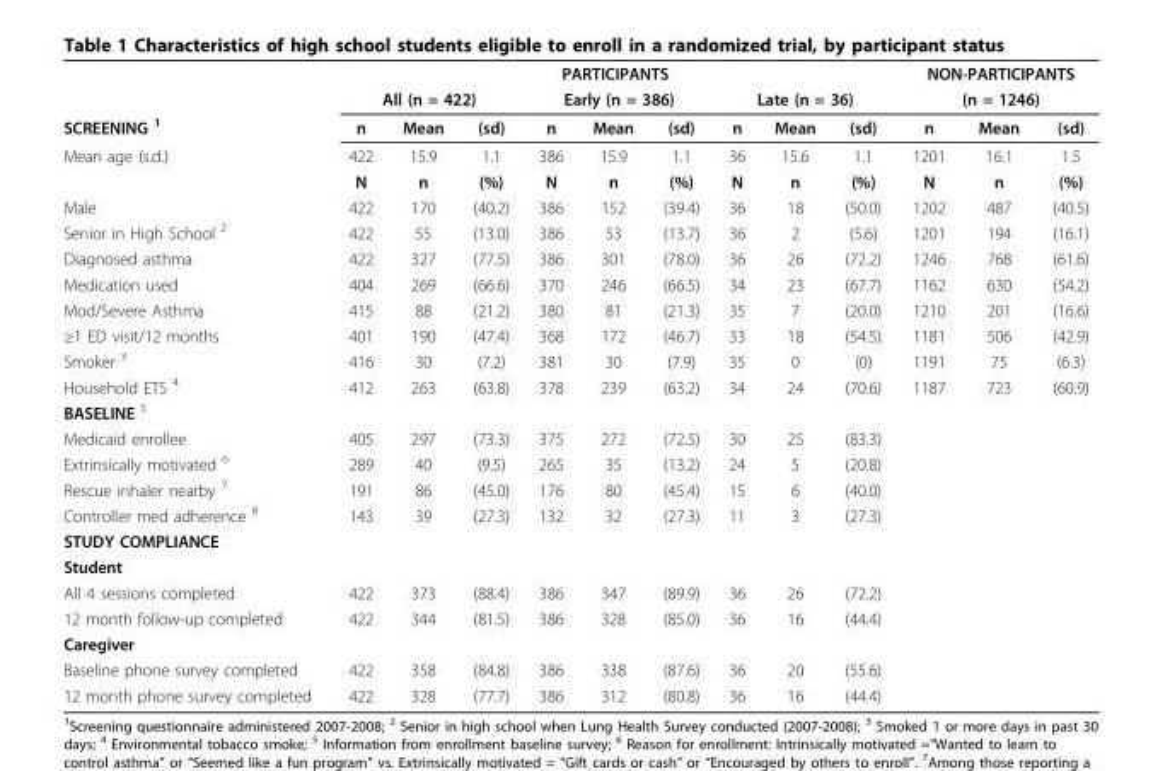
<table><thead><tr><td rowspan="3">SCREENING <sup>1</sup></td><td colspan="9">PARTICIPANTS</td><td rowspan="2" colspan="3">NON-PARTICIPANTS (n = 1246)</td></tr><tr><td colspan="3">All (n = 422)</td><td colspan="3">Early (n = 386)</td><td colspan="3">Late (n = 36)</td></tr><tr><td>n</td><td>Mean</td><td>(sd)</td><td>n</td><td>Mean</td><td>(sd)</td><td>n</td><td>Mean</td><td>(sd)</td><td>n</td><td>Mean</td><td>(sd)</td></tr></thead><tbody><tr><td rowspan="2">Mean age (s.d.)</td><td>422</td><td>15.9</td><td>1.1</td><td>386</td><td>15.9</td><td>1.1</td><td>36</td><td>15.6</td><td>1.1</td><td>1201</td><td>16.1</td><td>1.5</td></tr><tr><td>N</td><td>n</td><td>(%)</td><td>N</td><td>n</td><td>(%)</td><td>N</td><td>n</td><td>(%)</td><td>N</td><td>n</td><td>(%)</td></tr><tr><td>Male</td><td>422</td><td>170</td><td>(40.2)</td><td>386</td><td>152</td><td>(39.4)</td><td>36</td><td>18</td><td>(50.0)</td><td>1202</td><td>487</td><td>(40.5)</td></tr><tr><td>Senior in High School <sup>2</sup></td><td>422</td><td>55</td><td>(13.0)</td><td>386</td><td>53</td><td>(13.7)</td><td>36</td><td>2</td><td>(5.6)</td><td>1201</td><td>194</td><td>(16.1)</td></tr><tr><td>Diagnosed asthma</td><td>422</td><td>327</td><td>(77.5)</td><td>386</td><td>301</td><td>(78.0)</td><td>36</td><td>26</td><td>(72.2)</td><td>1246</td><td>768</td><td>(61.6)</td></tr><tr><td>Medication used</td><td>404</td><td>269</td><td>(66.6)</td><td>370</td><td>246</td><td>(66.5)</td><td>34</td><td>23</td><td>(67.7)</td><td>1162</td><td>630</td><td>(54.2)</td></tr><tr><td>Mod/Severe Asthma</td><td>415</td><td>88</td><td>(21.2)</td><td>380</td><td>81</td><td>(21.3)</td><td>35</td><td>7</td><td>(20.0)</td><td>1210</td><td>201</td><td>(16.6)</td></tr><tr><td>≥1 ED visit/12 months</td><td>401</td><td>190</td><td>(47.4)</td><td>368</td><td>172</td><td>(46.7)</td><td>33</td><td>18</td><td>(54.5)</td><td>1181</td><td>506</td><td>(42.9)</td></tr><tr><td>Smoker <sup>3</sup></td><td>416</td><td>30</td><td>(7.2)</td><td>381</td><td>30</td><td>(7.9)</td><td>35</td><td>0</td><td>(0)</td><td>1191</td><td>75</td><td>(6.3)</td></tr><tr><td>Household ETS <sup>4</sup></td><td>412</td><td>263</td><td>(63.8)</td><td>378</td><td>239</td><td>(63.2)</td><td>34</td><td>24</td><td>(70.6)</td><td>1187</td><td>723</td><td>(60.9)</td></tr><tr><td colspan="13">BASELINE <sup>5</sup></td></tr><tr><td>Medicaid enrollee</td><td>405</td><td>297</td><td>(73.3)</td><td>375</td><td>272</td><td>(72.5)</td><td>30</td><td>25</td><td>(83.3)</td><td></td><td></td><td></td></tr><tr><td>Extrinsically motivated <sup>6</sup></td><td>289</td><td>40</td><td>(9.5)</td><td>265</td><td>35</td><td>(13.2)</td><td>24</td><td>5</td><td>(20.8)</td><td></td><td></td><td></td></tr><tr><td>Rescue inhaler nearby <sup>7</sup></td><td>191</td><td>86</td><td>(45.0)</td><td>176</td><td>80</td><td>(45.4)</td><td>15</td><td>6</td><td>(40.0)</td><td></td><td></td><td></td></tr><tr><td>Controller med adherence <sup>8</sup></td><td>143</td><td>39</td><td>(27.3)</td><td>132</td><td>32</td><td>(27.3)</td><td>11</td><td>3</td><td>(27.3)</td><td></td><td></td><td></td></tr><tr><td colspan="13">STUDY COMPLIANCE</td></tr><tr><td colspan="13">Student</td></tr><tr><td>All 4 sessions completed</td><td>422</td><td>373</td><td>(88.4)</td><td>386</td><td>347</td><td>(89.9)</td><td>36</td><td>26</td><td>(72.2)</td><td></td><td></td><td></td></tr><tr><td>12 month follow-up completed</td><td>422</td><td>344</td><td>(81.5)</td><td>386</td><td>328</td><td>(85.0)</td><td>36</td><td>16</td><td>(44.4)</td><td></td><td></td><td></td></tr><tr><td colspan="13">Caregiver</td></tr><tr><td>Baseline phone survey completed</td><td>422</td><td>358</td><td>(84.8)</td><td>386</td><td>338</td><td>(87.6)</td><td>36</td><td>20</td><td>(55.6)</td><td></td><td></td><td></td></tr><tr><td>12 month phone survey completed</td><td>422</td><td>328</td><td>(77.7)</td><td>386</td><td>312</td><td>(80.8)</td><td>36</td><td>16</td><td>(44.4)</td><td></td><td></td><td></td></tr></tbody></table>